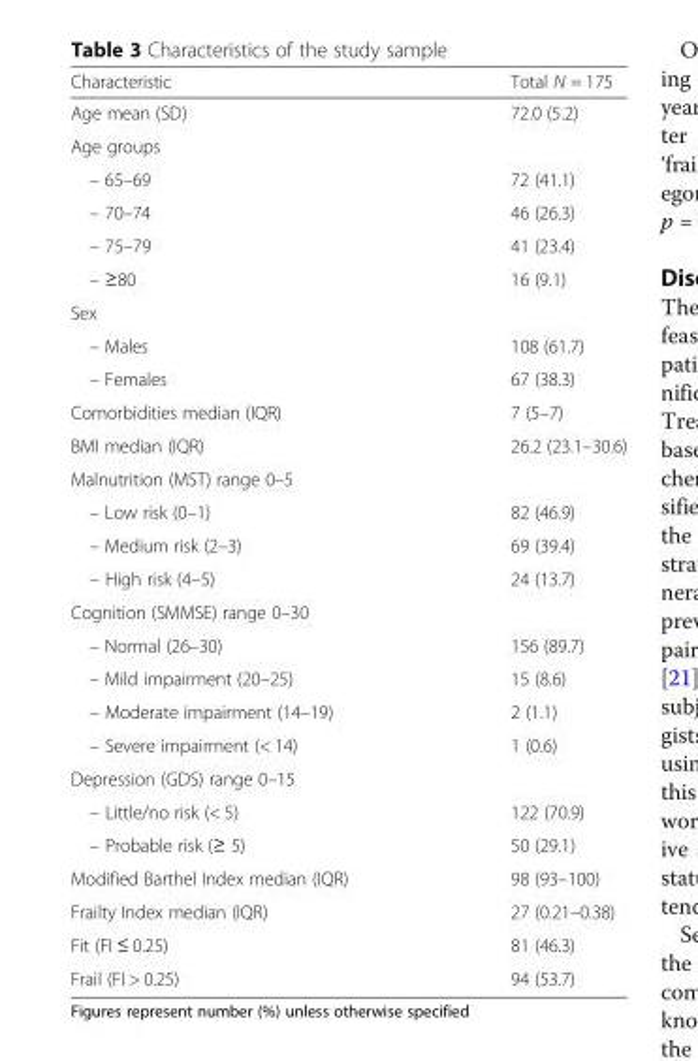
<table><thead><tr><td>Characteristic</td><td>Total N = 175</td></tr></thead><tbody><tr><td>Age mean (SD)</td><td>72.0 (5.2)</td></tr><tr><td colspan="2">Age groups</td></tr><tr><td>– 65–69</td><td>72 (41.1)</td></tr><tr><td>– 70–74</td><td>46 (26.3)</td></tr><tr><td>– 75–79</td><td>41 (23.4)</td></tr><tr><td>– ≥80</td><td>16 (9.1)</td></tr><tr><td colspan="2">Sex</td></tr><tr><td>– Males</td><td>108 (61.7)</td></tr><tr><td>– Females</td><td>67 (38.3)</td></tr><tr><td>Comorbidities median (IQR)</td><td>7 (5–7)</td></tr><tr><td>BMI median (IQR)</td><td>26.2 (23.1–30.6)</td></tr><tr><td colspan="2">Malnutrition (MST) range 0–5</td></tr><tr><td>– Low risk (0–1)</td><td>82 (46.9)</td></tr><tr><td>– Medium risk (2–3)</td><td>69 (39.4)</td></tr><tr><td>– High risk (4–5)</td><td>24 (13.7)</td></tr><tr><td colspan="2">Cognition (SMMSE) range 0–30</td></tr><tr><td>– Normal (26–30)</td><td>156 (89.7)</td></tr><tr><td>– Mild impairment (20–25)</td><td>15 (8.6)</td></tr><tr><td>– Moderate impairment (14–19)</td><td>2 (1.1)</td></tr><tr><td>– Severe impairment (&lt; 14)</td><td>1 (0.6)</td></tr><tr><td colspan="2">Depression (GDS) range 0–15</td></tr><tr><td>– Little/no risk (&lt; 5)</td><td>122 (70.9)</td></tr><tr><td>– Probable risk (≥ 5)</td><td>50 (29.1)</td></tr><tr><td>Modified Barthel Index median (IQR)</td><td>98 (93–100)</td></tr><tr><td>Frailty Index median (IQR)</td><td>27 (0.21–0.38)</td></tr><tr><td>Fit (FI ≤ 0.25)</td><td>81 (46.3)</td></tr><tr><td>Frail (FI &gt; 0.25)</td><td>94 (53.7)</td></tr></tbody></table>